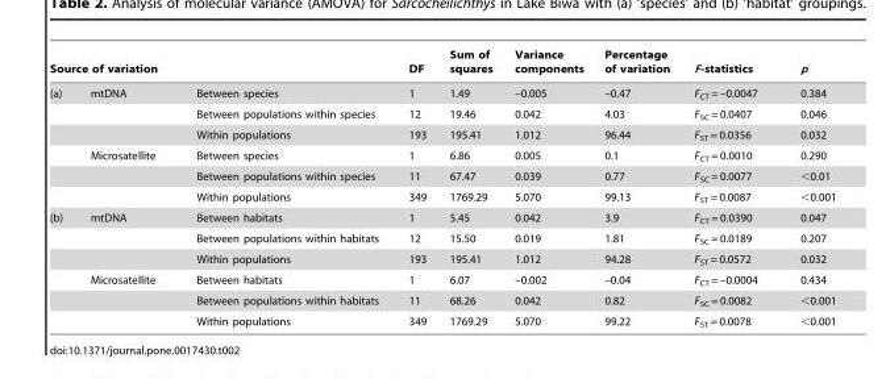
<table><thead><tr><td colspan="3">Source of variation</td><td rowspan="2">DF 1</td><td rowspan="2">Sum of squares 1.49</td><td rowspan="2">Variance components –0.005</td><td rowspan="2">Percentage of variation –0.47</td><td rowspan="2">F-statistics F<sub>CT</sub> = –0.0047</td><td rowspan="2">p 0.384</td></tr><tr><td>(a)</td><td>mtDNA</td><td>Between species</td></tr></thead><tbody><tr><td></td><td></td><td>Between populations within species</td><td>12</td><td>19.46</td><td>0.042</td><td>4.03</td><td>F<sub>SC</sub> = 0.0407</td><td>0.046</td></tr><tr><td></td><td></td><td>Within populations</td><td>193</td><td>195.41</td><td>1.012</td><td>96.44</td><td>F<sub>ST</sub> = 0.0356</td><td>0.032</td></tr><tr><td></td><td>Microsatellite</td><td>Between species</td><td>1</td><td>6.86</td><td>0.005</td><td>0.1</td><td>F<sub>CT</sub> = 0.0010</td><td>0.290</td></tr><tr><td></td><td></td><td>Between populations within species</td><td>11</td><td>67.47</td><td>0.039</td><td>0.77</td><td>F<sub>SC</sub> = 0.0077</td><td>&lt;0.01</td></tr><tr><td></td><td></td><td>Within populations</td><td>349</td><td>1769.29</td><td>5.070</td><td>99.13</td><td>F<sub>ST</sub> = 0.0087</td><td>&lt;0.001</td></tr><tr><td rowspan="6">(b)</td><td>mtDNA</td><td>Between habitats</td><td>1</td><td>5.45</td><td>0.042</td><td>3.9</td><td>F<sub>CT</sub> = 0.0390</td><td>0.047</td></tr><tr><td></td><td>Between populations within habitats</td><td>12</td><td>15.50</td><td>0.019</td><td>1.81</td><td>F<sub>SC</sub> = 0.0189</td><td>0.207</td></tr><tr><td></td><td>Within populations</td><td>193</td><td>195.41</td><td>1.012</td><td>94.28</td><td>F<sub>ST</sub> = 0.0572</td><td>0.032</td></tr><tr><td>Microsatellite</td><td>Between habitats</td><td>1</td><td>6.07</td><td>–0.002</td><td>–0.04</td><td>F<sub>CT</sub> = –0.0004</td><td>0.434</td></tr><tr><td></td><td>Between populations within habitats</td><td>11</td><td>68.26</td><td>0.042</td><td>0.82</td><td>F<sub>SC</sub> = 0.0082</td><td>&lt;0.001</td></tr><tr><td></td><td>Within populations</td><td>349</td><td>1769.29</td><td>5.070</td><td>99.22</td><td>F<sub>ST</sub> = 0.0078</td><td>&lt;0.001</td></tr></tbody></table>